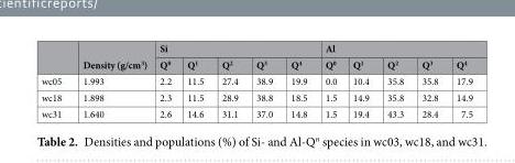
<table><thead><tr><td rowspan="2"></td><td rowspan="2">Density (g/cm<sup>3</sup>)</td><td colspan="5">Si</td><td colspan="5">Al</td></tr><tr><td>Q<sup>0</sup></td><td>Q<sup>1</sup></td><td>Q<sup>2</sup></td><td>Q<sup>3</sup></td><td>Q<sup>4</sup></td><td>Q<sup>0</sup></td><td>Q<sup>1</sup></td><td>Q<sup>2</sup></td><td>Q<sup>3</sup></td><td>Q<sup>4</sup></td></tr></thead><tbody><tr><td>wc05</td><td>1.993</td><td>2.2</td><td>11.5</td><td>27.4</td><td>38.9</td><td>19.9</td><td>0.0</td><td>10.4</td><td>35.8</td><td>35.8</td><td>17.9</td></tr><tr><td>wc18</td><td>1.898</td><td>2.3</td><td>11.5</td><td>28.9</td><td>38.8</td><td>18.5</td><td>1.5</td><td>14.9</td><td>35.8</td><td>32.8</td><td>14.9</td></tr><tr><td>wc31</td><td>1.640</td><td>2.6</td><td>14.6</td><td>31.1</td><td>37.0</td><td>14.8</td><td>1.5</td><td>19.4</td><td>43.3</td><td>28.4</td><td>7.5</td></tr></tbody></table>